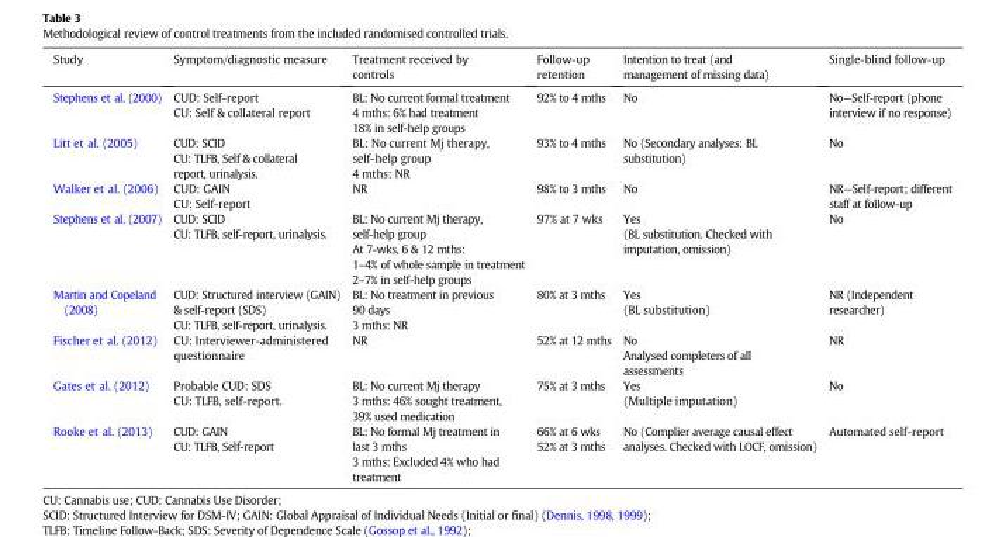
<table><thead><tr><td>Study</td><td>Symptom/diagnostic measure</td><td>Treatment received by controls</td><td>Follow-up retention</td><td>Intention to treat (and management of missing data)</td><td>Single-blind follow-up</td></tr></thead><tbody><tr><td>Stephens et al. (2000)</td><td>CUD: Self-report CU: Self &amp; collateral report</td><td>BL: No current formal treatment 4 mths: 6% had treatment 18% in self-help groups</td><td>92% to 4 mths</td><td>No</td><td>No—Self-report (phone interview if no response)</td></tr><tr><td>Litt et al. (2005)</td><td>CUD: SCID CU: TLFB, Self &amp; collateral report, urinalysis.</td><td>BL: No current Mj therapy, self-help group 4 mths: NR</td><td>93% to 4 mths</td><td>No (Secondary analyses: BL substitution)</td><td>No</td></tr><tr><td>Walker et al. (2006)</td><td>CUD: GAIN CU: Self-report</td><td>NR</td><td>98% to 3 mths</td><td>No</td><td>NR—Self-report; different staff at follow-up</td></tr><tr><td>Stephens et al. (2007)</td><td>CUD: SCID CU: TLFB, self-report, urinalysis.</td><td>BL: No current Mj therapy, self-help group At 7-wks, 6 &amp; 12 mths: 1–4% of whole sample in treatment 2–7% in self-help groups</td><td>97% at 7 wks</td><td>Yes (BL substitution. Checked with imputation, omission)</td><td>No</td></tr><tr><td>Martin and Copeland (2008)</td><td>CUD: Structured interview (GAIN) &amp; self-report (SDS) CU: TLFB, self-report, urinalysis.</td><td>BL: No treatment in previous 90 days 3 mths: NR</td><td>80% at 3 mths</td><td>Yes (BL substitution)</td><td>NR (Independent researcher)</td></tr><tr><td>Fischer et al. (2012)</td><td>CU: Interviewer-administered questionnaire</td><td>NR</td><td>52% at 12 mths</td><td>No Analysed completers of all assessments</td><td>NR</td></tr><tr><td>Gates et al. (2012)</td><td>Probable CUD: SDS CU: TLFB, self-report.</td><td>BL: No current Mj therapy 3 mths: 46% sought treatment, 39% used medication</td><td>75% at 3 mths</td><td>Yes (Multiple imputation)</td><td>No</td></tr><tr><td>Rooke et al. (2013)</td><td>CUD: GAIN CU: TLFB, Self-report</td><td>BL: No formal Mj treatment in last 3 mths 3 mths: Excluded 4% who had treatment</td><td>66% at 6 wks 52% at 3 mths</td><td>No (Complier average causal effect analyses. Checked with LOCF, omission)</td><td>Automated self-report</td></tr></tbody></table>